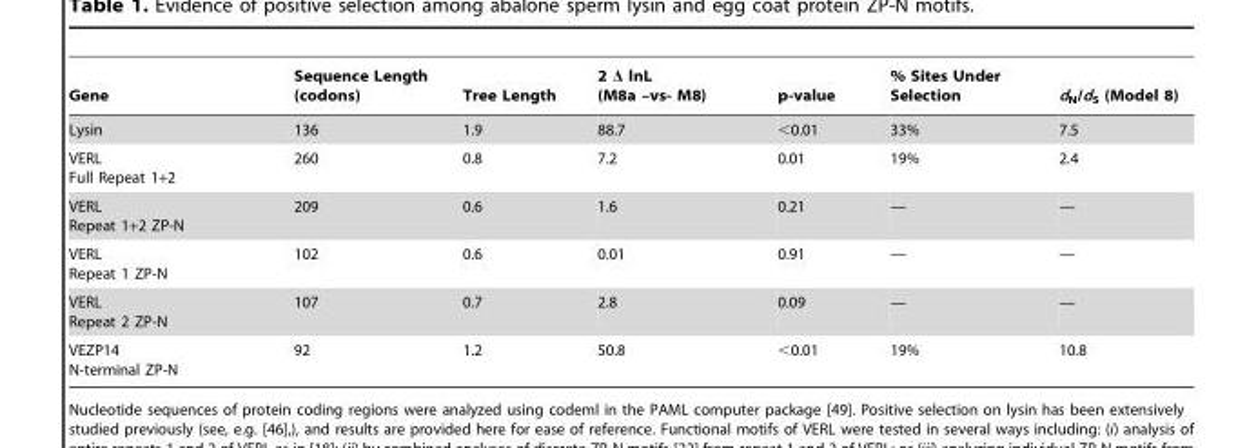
<table><thead><tr><td>Gene</td><td>Sequence Length (codons)</td><td>Tree Length</td><td>2 Δ lnL (M8a –vs- M8)</td><td>p-value</td><td>% Sites Under Selection</td><td>d<sub>N</sub>/d<sub>S</sub> (Model 8)</td></tr></thead><tbody><tr><td>Lysin</td><td>136</td><td>1.9</td><td>88.7</td><td>&lt;0.01</td><td>33%</td><td>7.5</td></tr><tr><td>VERL Full Repeat 1+2</td><td>260</td><td>0.8</td><td>7.2</td><td>0.01</td><td>19%</td><td>2.4</td></tr><tr><td>VERL Repeat 1+2 ZP-N</td><td>209</td><td>0.6</td><td>1.6</td><td>0.21</td><td>—</td><td>—</td></tr><tr><td>VERL Repeat 1 ZP-N</td><td>102</td><td>0.6</td><td>0.01</td><td>0.91</td><td>—</td><td>—</td></tr><tr><td>VERL Repeat 2 ZP-N</td><td>107</td><td>0.7</td><td>2.8</td><td>0.09</td><td>—</td><td>—</td></tr><tr><td>VEZP14 N-terminal ZP-N</td><td>92</td><td>1.2</td><td>50.8</td><td>&lt;0.01</td><td>19%</td><td>10.8</td></tr></tbody></table>